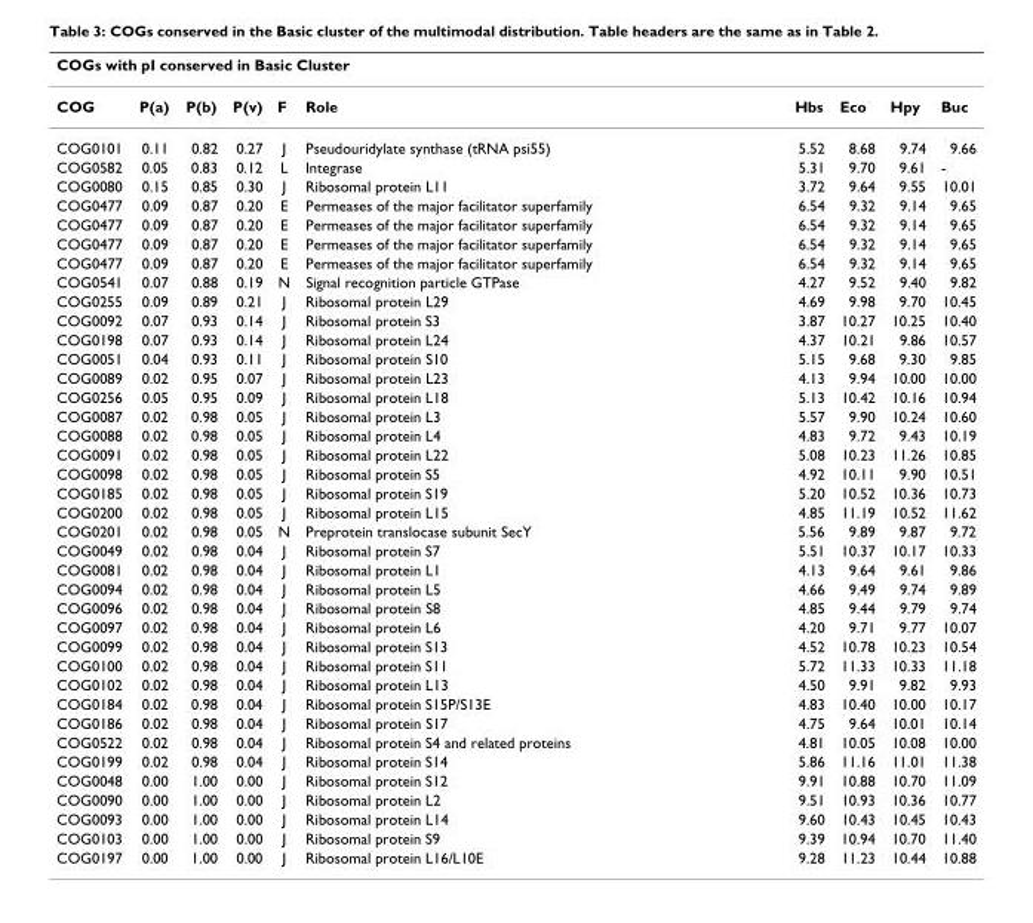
<table><thead><tr><td colspan="10">COGs with pI conserved in Basic Cluster</td></tr><tr><td>COG</td><td>P(a)</td><td>P(b)</td><td>P(v)</td><td>F</td><td>Role</td><td>Hbs</td><td>Eco</td><td>Hpy</td><td>Buc</td></tr></thead><tbody><tr><td>COG0101</td><td>0.11</td><td>0.82</td><td>0.27</td><td>J</td><td>Pseudouridylate synthase (tRNA psi55)</td><td>5.52</td><td>8.68</td><td>9.74</td><td>9.66</td></tr><tr><td>COG0582</td><td>0.05</td><td>0.83</td><td>0.12</td><td>L</td><td>Integrase</td><td>5.31</td><td>9.70</td><td>9.61</td><td>-</td></tr><tr><td>COG0080</td><td>0.15</td><td>0.85</td><td>0.30</td><td>J</td><td>Ribosomal protein L11</td><td>3.72</td><td>9.64</td><td>9.55</td><td>10.01</td></tr><tr><td>COG0477</td><td>0.09</td><td>0.87</td><td>0.20</td><td>E</td><td>Permeases of the major facilitator superfamily</td><td>6.54</td><td>9.32</td><td>9.14</td><td>9.65</td></tr><tr><td>COG0477</td><td>0.09</td><td>0.87</td><td>0.20</td><td>E</td><td>Permeases of the major facilitator superfamily</td><td>6.54</td><td>9.32</td><td>9.14</td><td>9.65</td></tr><tr><td>COG0477</td><td>0.09</td><td>0.87</td><td>0.20</td><td>E</td><td>Permeases of the major facilitator superfamily</td><td>6.54</td><td>9.32</td><td>9.14</td><td>9.65</td></tr><tr><td>COG0477</td><td>0.09</td><td>0.87</td><td>0.20</td><td>E</td><td>Permeases of the major facilitator superfamily</td><td>6.54</td><td>9.32</td><td>9.14</td><td>9.65</td></tr><tr><td>COG0541</td><td>0.07</td><td>0.88</td><td>0.19</td><td>N</td><td>Signal recognition particle GTPase</td><td>4.27</td><td>9.52</td><td>9.40</td><td>9.82</td></tr><tr><td>COG0255</td><td>0.09</td><td>0.89</td><td>0.21</td><td>J</td><td>Ribosomal protein L29</td><td>4.69</td><td>9.98</td><td>9.70</td><td>10.45</td></tr><tr><td>COG0092</td><td>0.07</td><td>0.93</td><td>0.14</td><td>J</td><td>Ribosomal protein S3</td><td>3.87</td><td>10.27</td><td>10.25</td><td>10.40</td></tr><tr><td>COG0198</td><td>0.07</td><td>0.93</td><td>0.14</td><td>J</td><td>Ribosomal protein L24</td><td>4.37</td><td>10.21</td><td>9.86</td><td>10.57</td></tr><tr><td>COG0051</td><td>0.04</td><td>0.93</td><td>0.11</td><td>J</td><td>Ribosomal protein S10</td><td>5.15</td><td>9.68</td><td>9.30</td><td>9.85</td></tr><tr><td>COG0089</td><td>0.02</td><td>0.95</td><td>0.07</td><td>J</td><td>Ribosomal protein L23</td><td>4.13</td><td>9.94</td><td>10.00</td><td>10.00</td></tr><tr><td>COG0256</td><td>0.05</td><td>0.95</td><td>0.09</td><td>J</td><td>Ribosomal protein L18</td><td>5.13</td><td>10.42</td><td>10.16</td><td>10.94</td></tr><tr><td>COG0087</td><td>0.02</td><td>0.98</td><td>0.05</td><td>J</td><td>Ribosomal protein L3</td><td>5.57</td><td>9.90</td><td>10.24</td><td>10.60</td></tr><tr><td>COG0088</td><td>0.02</td><td>0.98</td><td>0.05</td><td>J</td><td>Ribosomal protein L4</td><td>4.83</td><td>9.72</td><td>9.43</td><td>10.19</td></tr><tr><td>COG0091</td><td>0.02</td><td>0.98</td><td>0.05</td><td>J</td><td>Ribosomal protein L22</td><td>5.08</td><td>10.23</td><td>11.26</td><td>10.85</td></tr><tr><td>COG0098</td><td>0.02</td><td>0.98</td><td>0.05</td><td>J</td><td>Ribosomal protein S5</td><td>4.92</td><td>10.11</td><td>9.90</td><td>10.51</td></tr><tr><td>COG0185</td><td>0.02</td><td>0.98</td><td>0.05</td><td>J</td><td>Ribosomal protein S19</td><td>5.20</td><td>10.52</td><td>10.36</td><td>10.73</td></tr><tr><td>COG0200</td><td>0.02</td><td>0.98</td><td>0.05</td><td>J</td><td>Ribosomal protein L15</td><td>4.85</td><td>11.19</td><td>10.52</td><td>11.62</td></tr><tr><td>COG0201</td><td>0.02</td><td>0.98</td><td>0.05</td><td>N</td><td>Preprotein translocase subunit SecY</td><td>5.56</td><td>9.89</td><td>9.87</td><td>9.72</td></tr><tr><td>COG0049</td><td>0.02</td><td>0.98</td><td>0.04</td><td>J</td><td>Ribosomal protein S7</td><td>5.51</td><td>10.37</td><td>10.17</td><td>10.33</td></tr><tr><td>COG0081</td><td>0.02</td><td>0.98</td><td>0.04</td><td>J</td><td>Ribosomal protein L1</td><td>4.13</td><td>9.64</td><td>9.61</td><td>9.86</td></tr><tr><td>COG0094</td><td>0.02</td><td>0.98</td><td>0.04</td><td>J</td><td>Ribosomal protein L5</td><td>4.66</td><td>9.49</td><td>9.74</td><td>9.89</td></tr><tr><td>COG0096</td><td>0.02</td><td>0.98</td><td>0.04</td><td>J</td><td>Ribosomal protein S8</td><td>4.85</td><td>9.44</td><td>9.79</td><td>9.74</td></tr><tr><td>COG0097</td><td>0.02</td><td>0.98</td><td>0.04</td><td>J</td><td>Ribosomal protein L6</td><td>4.20</td><td>9.71</td><td>9.77</td><td>10.07</td></tr><tr><td>COG0099</td><td>0.02</td><td>0.98</td><td>0.04</td><td>J</td><td>Ribosomal protein S13</td><td>4.52</td><td>10.78</td><td>10.23</td><td>10.54</td></tr><tr><td>COG0100</td><td>0.02</td><td>0.98</td><td>0.04</td><td>J</td><td>Ribosomal protein S11</td><td>5.72</td><td>11.33</td><td>10.33</td><td>11.18</td></tr><tr><td>COG0102</td><td>0.02</td><td>0.98</td><td>0.04</td><td>J</td><td>Ribosomal protein L13</td><td>4.50</td><td>9.91</td><td>9.82</td><td>9.93</td></tr><tr><td>COG0184</td><td>0.02</td><td>0.98</td><td>0.04</td><td>J</td><td>Ribosomal protein S15P/S13E</td><td>4.83</td><td>10.40</td><td>10.00</td><td>10.17</td></tr><tr><td>COG0186</td><td>0.02</td><td>0.98</td><td>0.04</td><td>J</td><td>Ribosomal protein S17</td><td>4.75</td><td>9.64</td><td>10.01</td><td>10.14</td></tr><tr><td>COG0522</td><td>0.02</td><td>0.98</td><td>0.04</td><td>J</td><td>Ribosomal protein S4 and related proteins</td><td>4.81</td><td>10.05</td><td>10.08</td><td>10.00</td></tr><tr><td>COG0199</td><td>0.02</td><td>0.98</td><td>0.04</td><td>J</td><td>Ribosomal protein S14</td><td>5.86</td><td>11.16</td><td>11.01</td><td>11.38</td></tr><tr><td>COG0048</td><td>0.00</td><td>1.00</td><td>0.00</td><td>J</td><td>Ribosomal protein S12</td><td>9.91</td><td>10.88</td><td>10.70</td><td>11.09</td></tr><tr><td>COG0090</td><td>0.00</td><td>1.00</td><td>0.00</td><td>J</td><td>Ribosomal protein L2</td><td>9.51</td><td>10.93</td><td>10.36</td><td>10.77</td></tr><tr><td>COG0093</td><td>0.00</td><td>1.00</td><td>0.00</td><td>J</td><td>Ribosomal protein L14</td><td>9.60</td><td>10.43</td><td>10.45</td><td>10.43</td></tr><tr><td>COG0103</td><td>0.00</td><td>1.00</td><td>0.00</td><td>J</td><td>Ribosomal protein S9</td><td>9.39</td><td>10.94</td><td>10.70</td><td>11.40</td></tr><tr><td>COG0197</td><td>0.00</td><td>1.00</td><td>0.00</td><td>J</td><td>Ribosomal protein L16/L10E</td><td>9.28</td><td>11.23</td><td>10.44</td><td>10.88</td></tr></tbody></table>